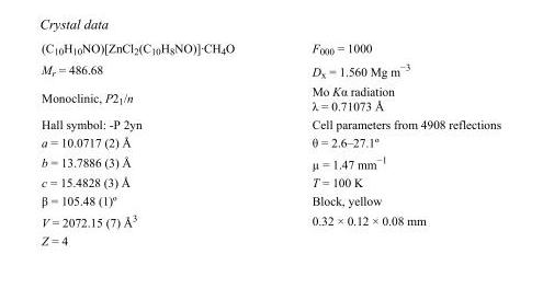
<table><tbody><tr><td>(C<sub>10</sub>H<sub>10</sub>NO)[ZnCl<sub>2</sub>(C<sub>10</sub>H<sub>8</sub>NO)]·CH<sub>4</sub>O</td><td>F000 = 1000</td></tr><tr><td>M<sub>r</sub> = 486.68</td><td>D<sub>x</sub> = 1.560 Mg m<sup>−3</sup></td></tr><tr><td>Monoclinic, P2<sub>1</sub>/n</td><td>Mo Kα radiation λ = 0.71073 Å</td></tr><tr><td>Hall symbol: -P 2yn</td><td>Cell parameters from 4908 reflections</td></tr><tr><td>a = 10.0717 (2) Å</td><td>θ = 2.6–27.1º</td></tr><tr><td>b = 13.7886 (3) Å</td><td>µ = 1.47 mm<sup>−1</sup></td></tr><tr><td>c = 15.4828 (3) Å</td><td>T = 100 K</td></tr><tr><td>β = 105.48 (1)º</td><td>Block, yellow</td></tr><tr><td>V = 2072.15 (7) Å<sup>3</sup></td><td>0.32 × 0.12 × 0.08 mm</td></tr><tr><td>Z = 4</td><td></td></tr></tbody></table>